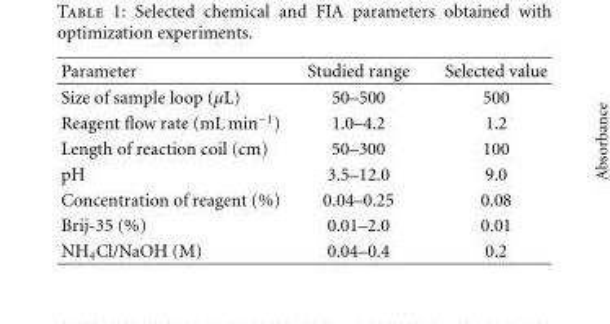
<table><thead><tr><td>Parameter</td><td>Studied range</td><td>Selected value</td></tr></thead><tbody><tr><td>Size of sample loop (µL)</td><td>50–500</td><td>500</td></tr><tr><td>Reagent flow rate (mL min<sup>−1</sup>)</td><td>1.0–4.2</td><td>1.2</td></tr><tr><td>Length of reaction coil (cm)</td><td>50–300</td><td>100</td></tr><tr><td>pH</td><td>3.5–12.0</td><td>9.0</td></tr><tr><td>Concentration of reagent (%)</td><td>0.04–0.25</td><td>0.08</td></tr><tr><td>Brij-35 (%)</td><td>0.01–2.0</td><td>0.01</td></tr><tr><td>NH<sub>4</sub>Cl/NaOH (M)</td><td>0.04–0.4</td><td>0.2</td></tr></tbody></table>